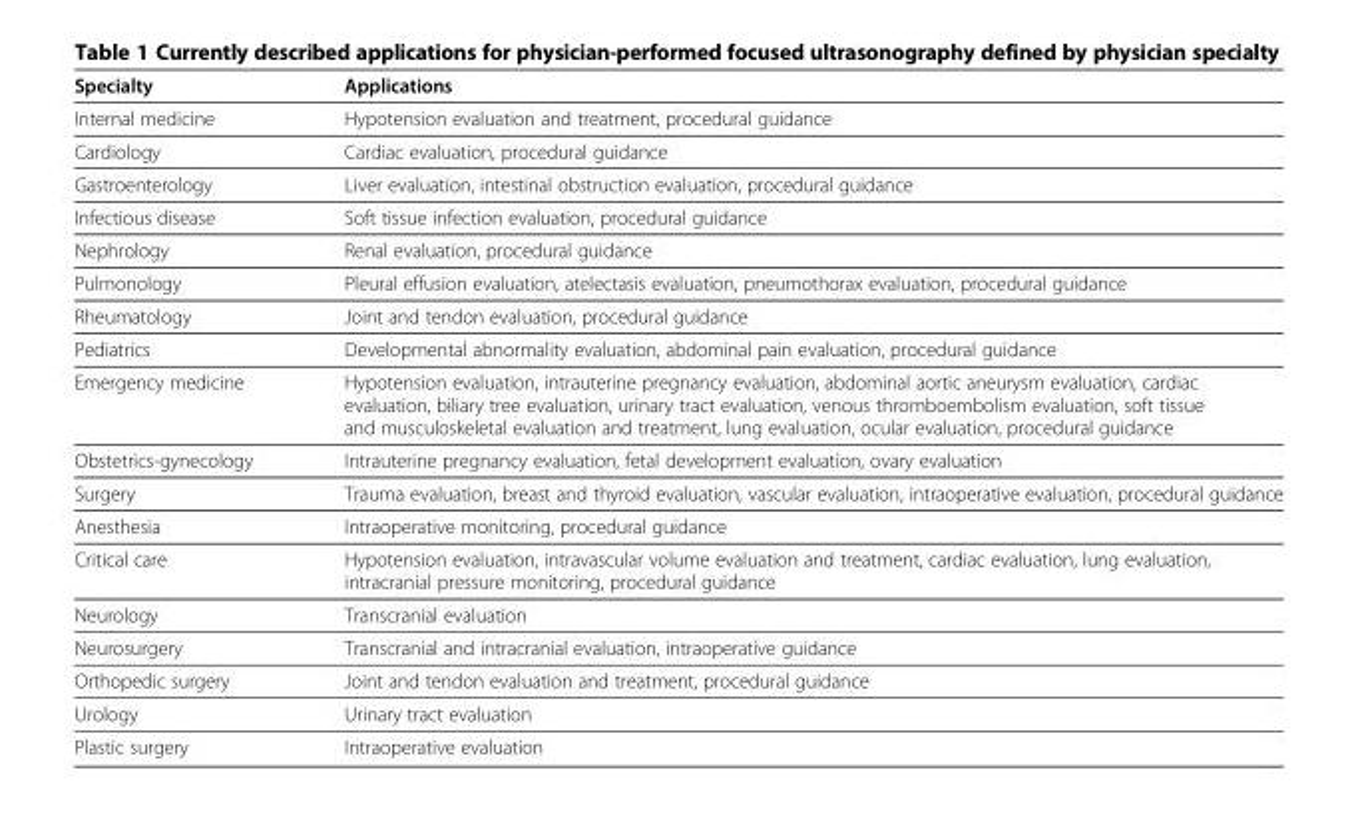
<table><thead><tr><td>Specialty</td><td>Applications</td></tr></thead><tbody><tr><td>Internal medicine</td><td>Hypotension evaluation and treatment, procedural guidance</td></tr><tr><td>Cardiology</td><td>Cardiac evaluation, procedural guidance</td></tr><tr><td>Gastroenterology</td><td>Liver evaluation, intestinal obstruction evaluation, procedural guidance</td></tr><tr><td>Infectious disease</td><td>Soft tissue infection evaluation, procedural guidance</td></tr><tr><td>Nephrology</td><td>Renal evaluation, procedural guidance</td></tr><tr><td>Pulmonology</td><td>Pleural effusion evaluation, atelectasis evaluation, pneumothorax evaluation, procedural guidance</td></tr><tr><td>Rheumatology</td><td>Joint and tendon evaluation, procedural guidance</td></tr><tr><td>Pediatrics</td><td>Developmental abnormality evaluation, abdominal pain evaluation, procedural guidance</td></tr><tr><td>Emergency medicine</td><td>Hypotension evaluation, intrauterine pregnancy evaluation, abdominal aortic aneurysm evaluation, cardiac evaluation, biliary tree evaluation, urinary tract evaluation, venous thromboembolism evaluation, soft tissue and musculoskeletal evaluation and treatment, lung evaluation, ocular evaluation, procedural guidance</td></tr><tr><td>Obstetrics-gynecology</td><td>Intrauterine pregnancy evaluation, fetal development evaluation, ovary evaluation</td></tr><tr><td>Surgery</td><td>Trauma evaluation, breast and thyroid evaluation, vascular evaluation, intraoperative evaluation, procedural guidance</td></tr><tr><td>Anesthesia</td><td>Intraoperative monitoring, procedural guidance</td></tr><tr><td>Critical care</td><td>Hypotension evaluation, intravascular volume evaluation and treatment, cardiac evaluation, lung evaluation, intracranial pressure monitoring, procedural guidance</td></tr><tr><td>Neurology</td><td>Transcranial evaluation</td></tr><tr><td>Neurosurgery</td><td>Transcranial and intracranial evaluation, intraoperative guidance</td></tr><tr><td>Orthopedic surgery</td><td>Joint and tendon evaluation and treatment, procedural guidance</td></tr><tr><td>Urology</td><td>Urinary tract evaluation</td></tr><tr><td>Plastic surgery</td><td>Intraoperative evaluation</td></tr></tbody></table>